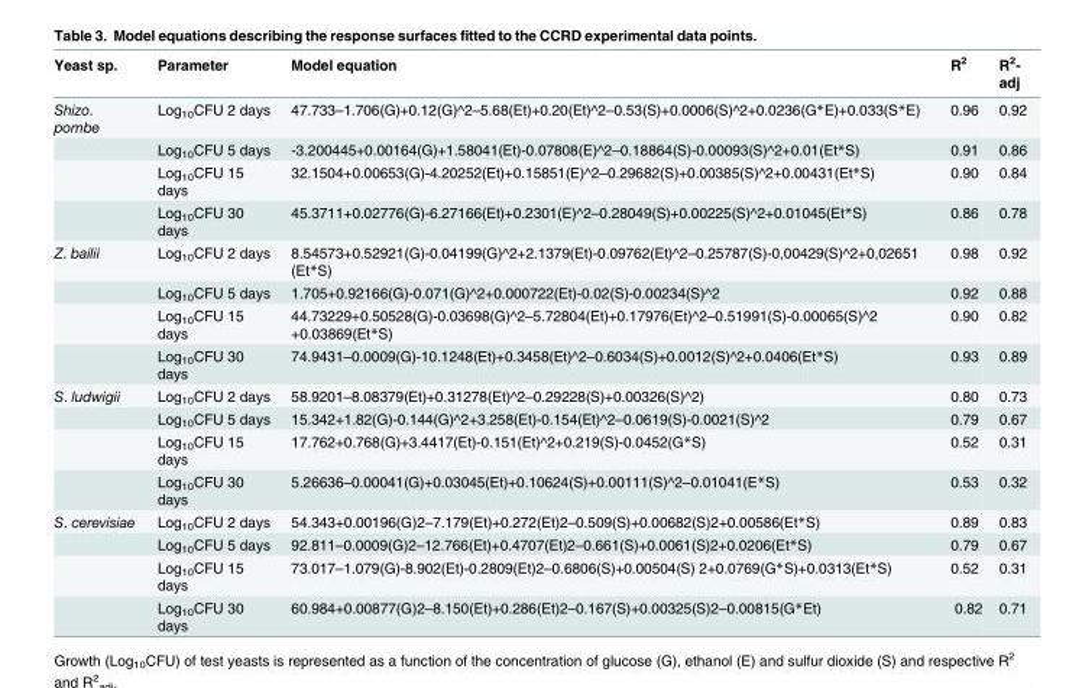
<table><thead><tr><td>Yeast sp.</td><td>Parameter</td><td>Model equation</td><td>R<sup>2</sup></td><td>R<sup>2</sup>- adj</td></tr></thead><tbody><tr><td rowspan="4">Shizo. pombe</td><td>Log<sub>10</sub>CFU 2 days</td><td>47.733–1.706(G)+0.12(G)^2–5.68(Et)+0.20(Et)^2–0.53(S)+0.0006(S)^2+0.0236(G*E)+0.033(S*E)</td><td>0.96</td><td>0.92</td></tr><tr><td>Log<sub>10</sub>CFU 5 days</td><td>-3.200445+0.00164(G)+1.58041(Et)-0.07808(E)^2–0.18864(S)-0.00093(S)^2+0.01(Et*S)</td><td>0.91</td><td>0.86</td></tr><tr><td>Log<sub>10</sub>CFU 15 days</td><td>32.1504+0.00653(G)-4.20252(Et)+0.15851(E)^2–0.29682(S)+0.00385(S)^2+0.00431(Et*S)</td><td>0.90</td><td>0.84</td></tr><tr><td>Log<sub>10</sub>CFU 30 days</td><td>45.3711+0.02776(G)-6.27166(Et)+0.2301(E)^2–0.28049(S)+0.00225(S)^2+0.01045(Et*S)</td><td>0.86</td><td>0.78</td></tr><tr><td rowspan="4">Z. bailii</td><td>Log<sub>10</sub>CFU 2 days</td><td>8.54573+0.52921(G)-0.04199(G)^2+2.1379(Et)-0.09762(Et)^2–0.25787(S)-0,00429(S)^2+0,02651 (Et*S)</td><td>0.98</td><td>0.92</td></tr><tr><td>Log<sub>10</sub>CFU 5 days</td><td>1.705+0.92166(G)-0.071(G)^2+0.000722(Et)-0.02(S)-0.00234(S)^2</td><td>0.92</td><td>0.88</td></tr><tr><td>Log<sub>10</sub>CFU 15 days</td><td>44.73229+0.50528(G)-0.03698(G)^2–5.72804(Et)+0.17976(Et)^2–0.51991(S)-0.00065(S)^2 +0.03869(Et*S)</td><td>0.90</td><td>0.82</td></tr><tr><td>Log<sub>10</sub>CFU 30 days</td><td>74.9431–0.0009(G)-10.1248(Et)+0.3458(Et)^2–0.6034(S)+0.0012(S)^2+0.0406(Et*S)</td><td>0.93</td><td>0.89</td></tr><tr><td rowspan="4">S. ludwigii</td><td>Log<sub>10</sub>CFU 2 days</td><td>58.9201–8.08379(Et)+0.31278(Et)^2–0.29228(S)+0.00326(S)^2)</td><td>0.80</td><td>0.73</td></tr><tr><td>Log<sub>10</sub>CFU 5 days</td><td>15.342+1.82(G)-0.144(G)^2+3.258(Et)-0.154(Et)^2–0.0619(S)-0.0021(S)^2</td><td>0.79</td><td>0.67</td></tr><tr><td>Log<sub>10</sub>CFU 15 days</td><td>17.762+0.768(G)+3.4417(Et)-0.151(Et)^2+0.219(S)-0.0452(G*S)</td><td>0.52</td><td>0.31</td></tr><tr><td>Log<sub>10</sub>CFU 30 days</td><td>5.26636–0.00041(G)+0.03045(Et)+0.10624(S)+0.00111(S)^2–0.01041(E*S)</td><td>0.53</td><td>0.32</td></tr><tr><td rowspan="4">S. cerevisiae</td><td>Log<sub>10</sub>CFU 2 days</td><td>54.343+0.00196(G)2–7.179(Et)+0.272(Et)2–0.509(S)+0.00682(S)2+0.00586(Et*S)</td><td>0.89</td><td>0.83</td></tr><tr><td>Log<sub>10</sub>CFU 5 days</td><td>92.811–0.0009(G)2–12.766(Et)+0.4707(Et)2–0.661(S)+0.0061(S)2+0.0206(Et*S)</td><td>0.79</td><td>0.67</td></tr><tr><td>Log<sub>10</sub>CFU 15 days</td><td>73.017–1.079(G)-8.902(Et)-0.2809(Et)2–0.6806(S)+0.00504(S) 2+0.0769(G*S)+0.0313(Et*S)</td><td>0.52</td><td>0.31</td></tr><tr><td>Log<sub>10</sub>CFU 30 days</td><td>60.984+0.00877(G)2–8.150(Et)+0.286(Et)2–0.167(S)+0.00325(S)2–0.00815(G*Et)</td><td>0.82</td><td>0.71</td></tr></tbody></table>